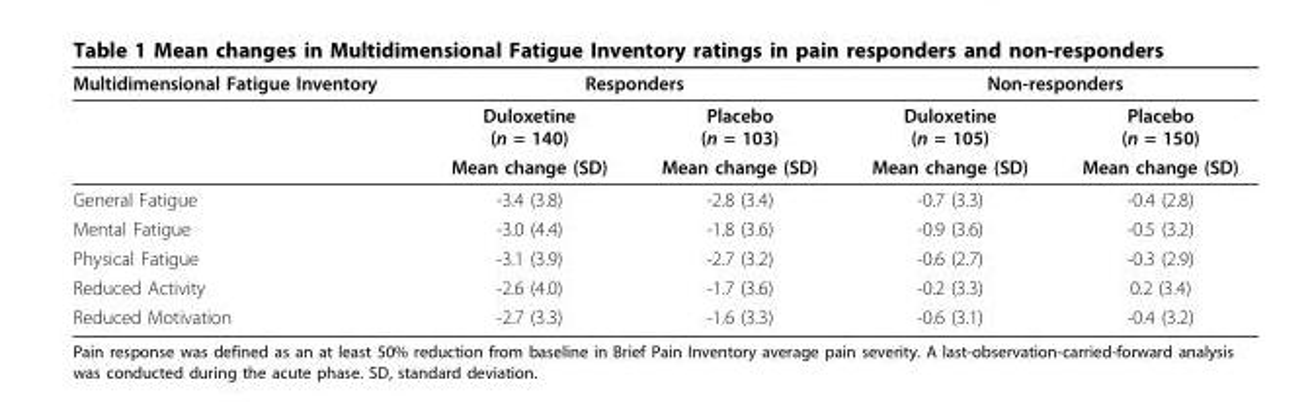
<table><thead><tr><td rowspan="2">Multidimensional Fatigue Inventory</td><td colspan="2">Responders</td><td colspan="2">Non-responders</td></tr><tr><td>Duloxetine (n = 140)</td><td>Placebo (n = 103)</td><td>Duloxetine (n = 105)</td><td>Placebo (n = 150)</td></tr></thead><tbody><tr><td></td><td>Mean change (SD)</td><td>Mean change (SD)</td><td>Mean change (SD)</td><td>Mean change (SD)</td></tr><tr><td>General Fatigue</td><td>-3.4 (3.8)</td><td>-2.8 (3.4)</td><td>-0.7 (3.3)</td><td>-0.4 (2.8)</td></tr><tr><td>Mental Fatigue</td><td>-3.0 (4.4)</td><td>-1.8 (3.6)</td><td>-0.9 (3.6)</td><td>-0.5 (3.2)</td></tr><tr><td>Physical Fatigue</td><td>-3.1 (3.9)</td><td>-2.7 (3.2)</td><td>-0.6 (2.7)</td><td>-0.3 (2.9)</td></tr><tr><td>Reduced Activity</td><td>-2.6 (4.0)</td><td>-1.7 (3.6)</td><td>-0.2 (3.3)</td><td>0.2 (3.4)</td></tr><tr><td>Reduced Motivation</td><td>-2.7 (3.3)</td><td>-1.6 (3.3)</td><td>-0.6 (3.1)</td><td>-0.4 (3.2)</td></tr></tbody></table>